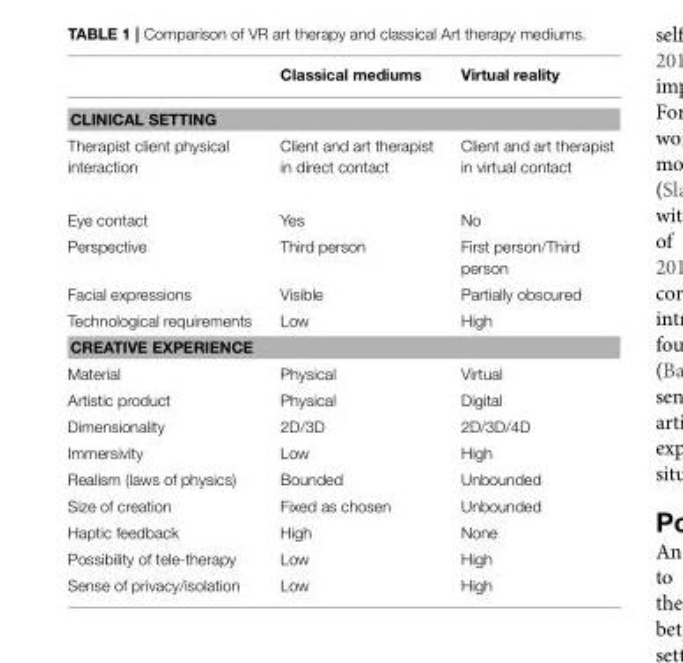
<table><thead><tr><td></td><td>Classical mediums</td><td>Virtual reality</td></tr></thead><tbody><tr><td colspan="3">CLINICAL SETTING</td></tr><tr><td>Therapist client physical interaction</td><td>Client and art therapist in direct contact</td><td>Client and art therapist in virtual contact</td></tr><tr><td>Eye contact</td><td>Yes</td><td>No</td></tr><tr><td>Perspective</td><td>Third person</td><td>First person/Third person</td></tr><tr><td>Facial expressions</td><td>Visible</td><td>Partially obscured</td></tr><tr><td>Technological requirements</td><td>Low</td><td>High</td></tr><tr><td colspan="3">CREATIVE EXPERIENCE</td></tr><tr><td>Material</td><td>Physical</td><td>Virtual</td></tr><tr><td>Artistic product</td><td>Physical</td><td>Digital</td></tr><tr><td>Dimensionality</td><td>2D/3D</td><td>2D/3D/4D</td></tr><tr><td>Immersivity</td><td>Low</td><td>High</td></tr><tr><td>Realism (laws of physics)</td><td>Bounded</td><td>Unbounded</td></tr><tr><td>Size of creation</td><td>Fixed as chosen</td><td>Unbounded</td></tr><tr><td>Haptic feedback</td><td>High</td><td>None</td></tr><tr><td>Possibility of tele-therapy</td><td>Low</td><td>High</td></tr><tr><td>Sense of privacy/isolation</td><td>Low</td><td>High</td></tr></tbody></table>